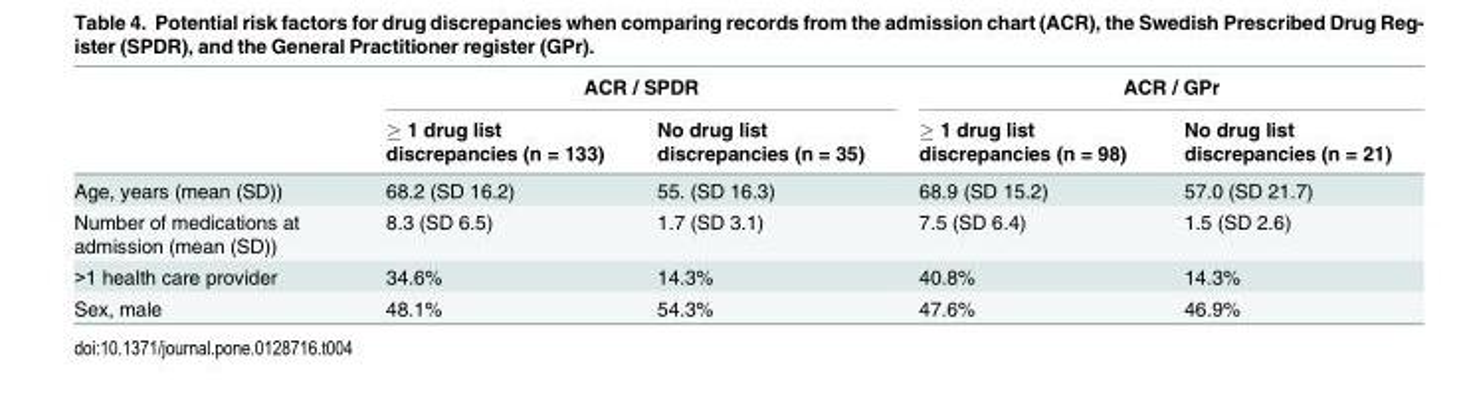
<table><thead><tr><td rowspan="2"></td><td colspan="2">ACR / SPDR</td><td colspan="2">ACR / GPr</td></tr><tr><td>≥ 1 drug list discrepancies (n = 133)</td><td>No drug list discrepancies (n = 35)</td><td>≥ 1 drug list discrepancies (n = 98)</td><td>No drug list discrepancies (n = 21)</td></tr></thead><tbody><tr><td>Age, years (mean (SD))</td><td>68.2 (SD 16.2)</td><td>55. (SD 16.3)</td><td>68.9 (SD 15.2)</td><td>57.0 (SD 21.7)</td></tr><tr><td>Number of medications at admission (mean (SD))</td><td>8.3 (SD 6.5)</td><td>1.7 (SD 3.1)</td><td>7.5 (SD 6.4)</td><td>1.5 (SD 2.6)</td></tr><tr><td>&gt;1 health care provider</td><td>34.6%</td><td>14.3%</td><td>40.8%</td><td>14.3%</td></tr><tr><td>Sex, male</td><td>48.1%</td><td>54.3%</td><td>47.6%</td><td>46.9%</td></tr></tbody></table>